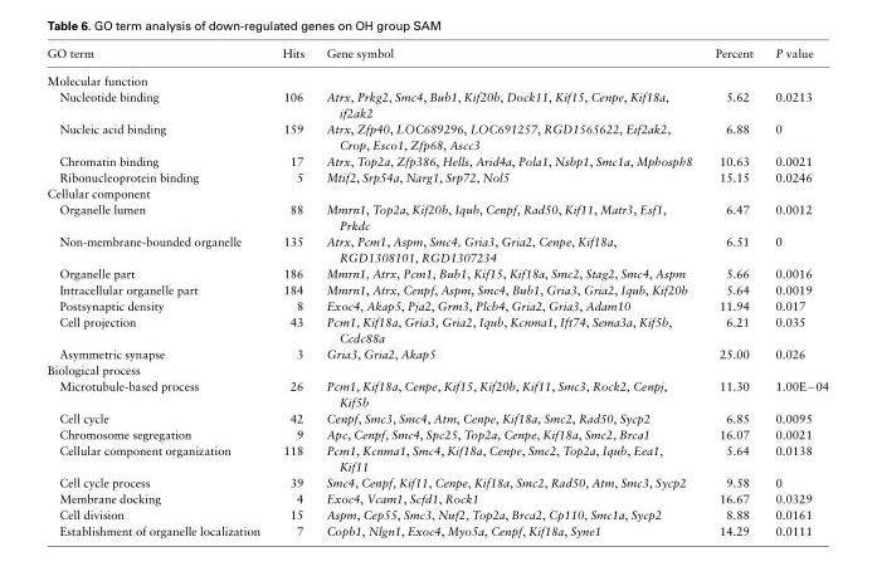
<table><thead><tr><td>GO term</td><td>Hits</td><td>Gene symbol</td><td>Percent</td><td>P value</td></tr></thead><tbody><tr><td colspan="5">Molecular function</td></tr><tr><td>Nucleotide binding</td><td>106</td><td>Atrx, Prkg2, Smc4, Bub1, Kif20b, Dock11, Kif15, Cenpe, Kif18a, if2ak2</td><td>5.62</td><td>0.0213</td></tr><tr><td>Nucleic acid binding</td><td>159</td><td>Atrx, Zfp40, LOC689296, LOC691257, RGD1565622, Eif2ak2, Crop, Esco1, Zfp68, Ascc3</td><td>6.88</td><td>0</td></tr><tr><td>Chromatin binding</td><td>17</td><td>Atrx, Top2a, Zfp386, Hells, Arid4a, Pola1, Nsbp1, Smc1a, Mphosph8</td><td>10.63</td><td>0.0021</td></tr><tr><td>Ribonucleoprotein binding</td><td>5</td><td>Mtif2, Srp54a, Narg1, Srp72, Nol5</td><td>15.15</td><td>0.0246</td></tr><tr><td colspan="5">Cellular component</td></tr><tr><td>Organelle lumen</td><td>88</td><td>Mmrn1, Top2a, Kif20b, Iqub, Cenpf, Rad50, Kif11, Matr3, Esf1, Prkdc</td><td>6.47</td><td>0.0012</td></tr><tr><td>Non-membrane-bounded organelle</td><td>135</td><td>Atrx, Pcm1, Aspm, Smc4, Gria3, Gria2, Cenpe, Kif18a, RGD1308101, RGD1307234</td><td>6.51</td><td>0</td></tr><tr><td>Organelle part</td><td>186</td><td>Mmrn1, Atrx, Pcm1, Bub1, Kif15, Kif18a, Smc2, Stag2, Smc4, Aspm</td><td>5.66</td><td>0.0016</td></tr><tr><td>Intracellular organelle part</td><td>184</td><td>Mmrn1, Atrx, Cenpf, Aspm, Smc4, Bub1, Gria3, Gria2, Iqub, Kif20b</td><td>5.64</td><td>0.0019</td></tr><tr><td>Postsynaptic density</td><td>8</td><td>Exoc4, Akap5, Pja2, Grm3, Plcb4, Gria2, Gria3, Adam10</td><td>11.94</td><td>0.017</td></tr><tr><td>Cell projection</td><td>43</td><td>Pcm1, Kif18a, Gria3, Gria2, Iqub, Kcnma1, Ift74, Sema3a, Kif5b, Ccdc88a</td><td>6.21</td><td>0.035</td></tr><tr><td>Asymmetric synapse</td><td>3</td><td>Gria3, Gria2, Akap5</td><td>25.00</td><td>0.026</td></tr><tr><td colspan="5">Biological process</td></tr><tr><td>Microtubule-based process</td><td>26</td><td>Pcm1, Kif18a, Cenpe, Kif15, Kif20b, Kif11, Smc3, Rock2, Cenpj, Kif5b</td><td>11.30</td><td>1.00E−04</td></tr><tr><td>Cell cycle</td><td>42</td><td>Cenpf, Smc3, Smc4, Atm, Cenpe, Kif18a, Smc2, Rad50, Sycp2</td><td>6.85</td><td>0.0095</td></tr><tr><td>Chromosome segregation</td><td>9</td><td>Apc, Cenpf, Smc4, Spc25, Top2a, Cenpe, Kif18a, Smc2, Brca1</td><td>16.07</td><td>0.0021</td></tr><tr><td>Cellular component organization</td><td>118</td><td>Pcm1, Kcnma1, Smc4, Kif18a, Cenpe, Smc2, Top2a, Iqub, Eea1, Kif11</td><td>5.64</td><td>0.0138</td></tr><tr><td>Cell cycle process</td><td>39</td><td>Smc4, Cenpf, Kif11, Cenpe, Kif18a, Smc2, Rad50, Atm, Smc3, Sycp2</td><td>9.58</td><td>0</td></tr><tr><td>Membrane docking</td><td>4</td><td>Exoc4, Vcam1, Scfd1, Rock1</td><td>16.67</td><td>0.0329</td></tr><tr><td>Cell division</td><td>15</td><td>Aspm, Cep55, Smc3, Nuf2, Top2a, Brca2, Cp110, Smc1a, Sycp2</td><td>8.88</td><td>0.0161</td></tr><tr><td>Establishment of organelle localization</td><td>7</td><td>Copb1, Nlgn1, Exoc4, Myo5a, Cenpf, Kif18a, Syne1</td><td>14.29</td><td>0.0111</td></tr></tbody></table>